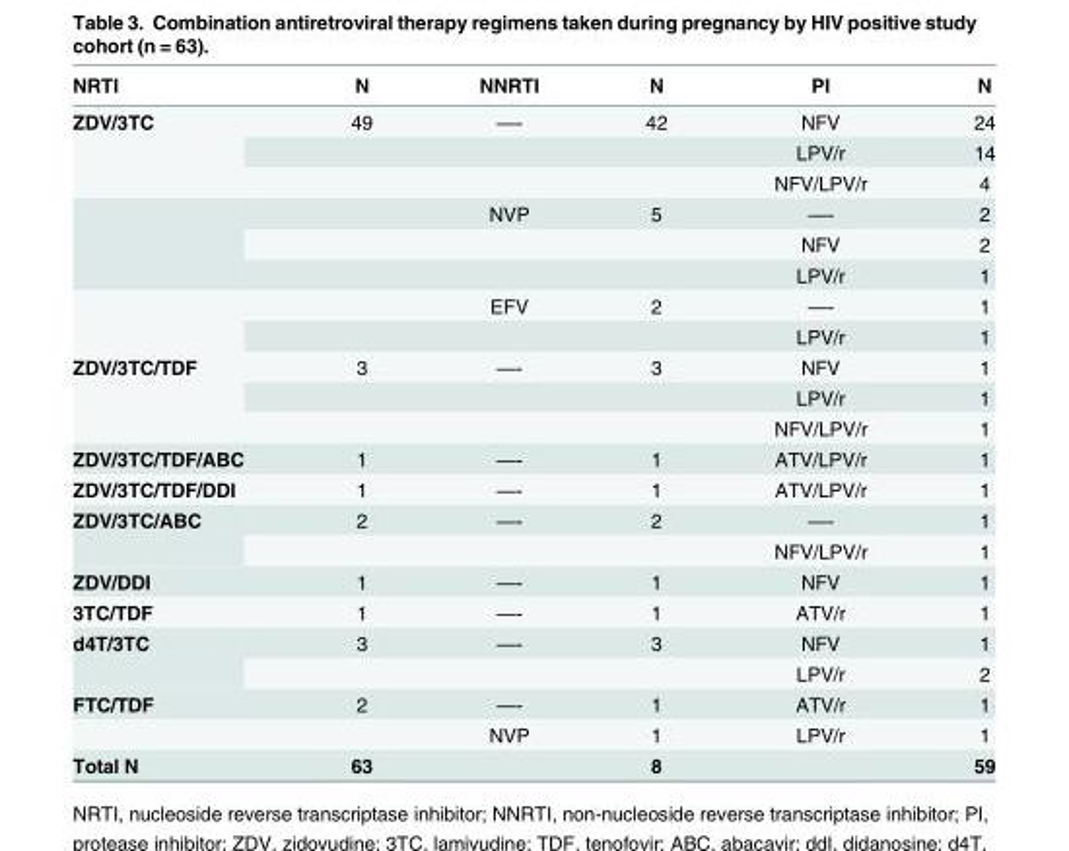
<table><thead><tr><td>NRTI</td><td>N</td><td>NNRTI</td><td>N</td><td>PI</td><td>N</td></tr></thead><tbody><tr><td rowspan="8">ZDV/3TC</td><td>49</td><td>—-</td><td>42</td><td>NFV</td><td>24</td></tr><tr><td></td><td></td><td></td><td>LPV/r</td><td>14</td></tr><tr><td></td><td></td><td></td><td>NFV/LPV/r</td><td>4</td></tr><tr><td></td><td>NVP</td><td>5</td><td>—-</td><td>2</td></tr><tr><td></td><td></td><td></td><td>NFV</td><td>2</td></tr><tr><td></td><td></td><td></td><td>LPV/r</td><td>1</td></tr><tr><td></td><td>EFV</td><td>2</td><td>—-</td><td>1</td></tr><tr><td></td><td></td><td></td><td>LPV/r</td><td>1</td></tr><tr><td rowspan="3">ZDV/3TC/TDF</td><td>3</td><td>—-</td><td>3</td><td>NFV</td><td>1</td></tr><tr><td></td><td></td><td></td><td>LPV/r</td><td>1</td></tr><tr><td></td><td></td><td></td><td>NFV/LPV/r</td><td>1</td></tr><tr><td>ZDV/3TC/TDF/ABC</td><td>1</td><td>—-</td><td>1</td><td>ATV/LPV/r</td><td>1</td></tr><tr><td>ZDV/3TC/TDF/DDI</td><td>1</td><td>—-</td><td>1</td><td>ATV/LPV/r</td><td>1</td></tr><tr><td rowspan="2">ZDV/3TC/ABC</td><td>2</td><td>—-</td><td>2</td><td>—-</td><td>1</td></tr><tr><td></td><td></td><td></td><td>NFV/LPV/r</td><td>1</td></tr><tr><td>ZDV/DDI</td><td>1</td><td>—-</td><td>1</td><td>NFV</td><td>1</td></tr><tr><td>3TC/TDF</td><td>1</td><td>—-</td><td>1</td><td>ATV/r</td><td>1</td></tr><tr><td rowspan="2">d4T/3TC</td><td>3</td><td>—-</td><td>3</td><td>NFV</td><td>1</td></tr><tr><td></td><td></td><td></td><td>LPV/r</td><td>2</td></tr><tr><td rowspan="2">FTC/TDF</td><td>2</td><td>—-</td><td>1</td><td>ATV/r</td><td>1</td></tr><tr><td></td><td>NVP</td><td>1</td><td>LPV/r</td><td>1</td></tr><tr><td>Total N</td><td>63</td><td></td><td>8</td><td></td><td>59</td></tr></tbody></table>